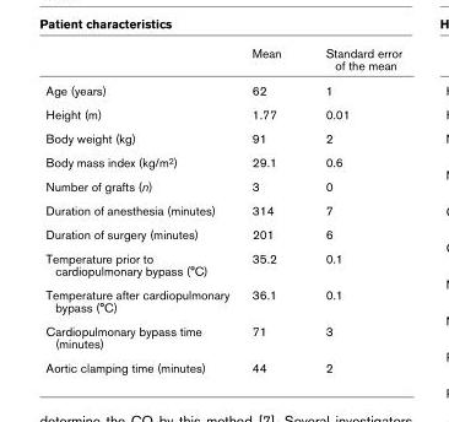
<table><thead><tr><td></td><td>Mean</td><td>Standard error of the mean</td></tr></thead><tbody><tr><td>Age (years)</td><td>62</td><td>1</td></tr><tr><td>Height (m)</td><td>1.77</td><td>0.01</td></tr><tr><td>Body weight (kg)</td><td>91</td><td>2</td></tr><tr><td>Body mass index (kg/m2)</td><td>29.1</td><td>0.6</td></tr><tr><td>Number of grafts (n)</td><td>3</td><td>0</td></tr><tr><td>Duration of anesthesia (minutes)</td><td>314</td><td>7</td></tr><tr><td>Duration of surgery (minutes)</td><td>201</td><td>6</td></tr><tr><td>Temperature prior to cardiopulmonary bypass (°C)</td><td>35.2</td><td>0.1</td></tr><tr><td>Temperature after cardiopulmonary bypass (°C)</td><td>36.1</td><td>0.1</td></tr><tr><td>Cardiopulmonary bypass time (minutes)</td><td>71</td><td>3</td></tr><tr><td>Aortic clamping time (minutes)</td><td>44</td><td>2</td></tr></tbody></table>